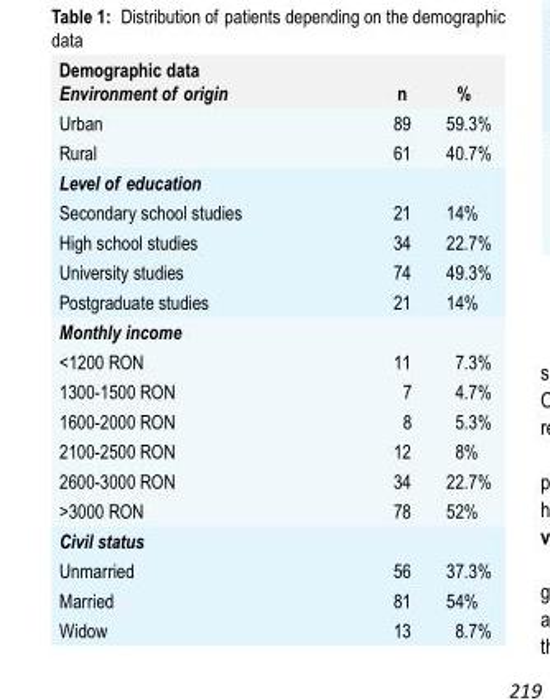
<table><thead><tr><td rowspan="2">Demographic data Environment of origin</td><td rowspan="2">n</td><td rowspan="2">%</td></tr><tr></tr></thead><tbody><tr><td>Urban</td><td>89</td><td>59.3%</td></tr><tr><td>Rural</td><td>61</td><td>40.7%</td></tr><tr><td colspan="3">Level of education</td></tr><tr><td>Secondary school studies</td><td>21</td><td>14%</td></tr><tr><td>High school studies</td><td>34</td><td>22.7%</td></tr><tr><td>University studies</td><td>74</td><td>49.3%</td></tr><tr><td>Postgraduate studies</td><td>21</td><td>14%</td></tr><tr><td colspan="3">Monthly income</td></tr><tr><td>&lt;1200 RON</td><td>11</td><td>7.3%</td></tr><tr><td>1300-1500 RON</td><td>7</td><td>4.7%</td></tr><tr><td>1600-2000 RON</td><td>8</td><td>5.3%</td></tr><tr><td>2100-2500 RON</td><td>12</td><td>8%</td></tr><tr><td>2600-3000 RON</td><td>34</td><td>22.7%</td></tr><tr><td>&gt;3000 RON</td><td>78</td><td>52%</td></tr><tr><td colspan="3">Civil status</td></tr><tr><td>Unmarried</td><td>56</td><td>37.3%</td></tr><tr><td>Married</td><td>81</td><td>54%</td></tr><tr><td>Widow</td><td>13</td><td>8.7%</td></tr></tbody></table>